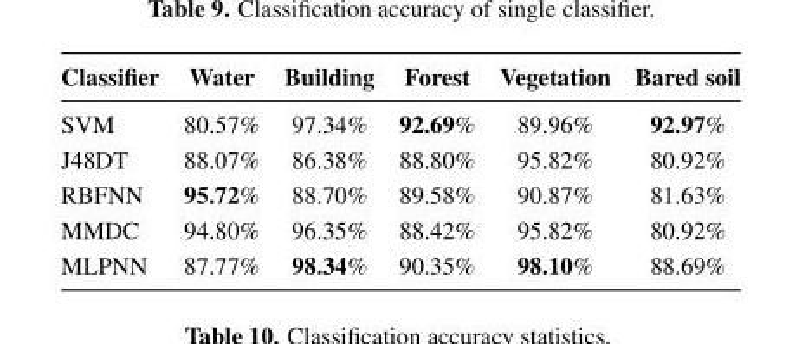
<table><thead><tr><td>Classifier</td><td>Water</td><td>Building</td><td>Forest</td><td>Vegetation</td><td>Bared soil</td></tr></thead><tbody><tr><td>SVM</td><td>80.57%</td><td>97.34%</td><td>92.69%</td><td>89.96%</td><td>92.97%</td></tr><tr><td>J48DT</td><td>88.07%</td><td>86.38%</td><td>88.80%</td><td>95.82%</td><td>80.92%</td></tr><tr><td>RBFNN</td><td>95.72%</td><td>88.70%</td><td>89.58%</td><td>90.87%</td><td>81.63%</td></tr><tr><td>MMDC</td><td>94.80%</td><td>96.35%</td><td>88.42%</td><td>95.82%</td><td>80.92%</td></tr><tr><td>MLPNN</td><td>87.77%</td><td>98.34%</td><td>90.35%</td><td>98.10%</td><td>88.69%</td></tr></tbody></table>